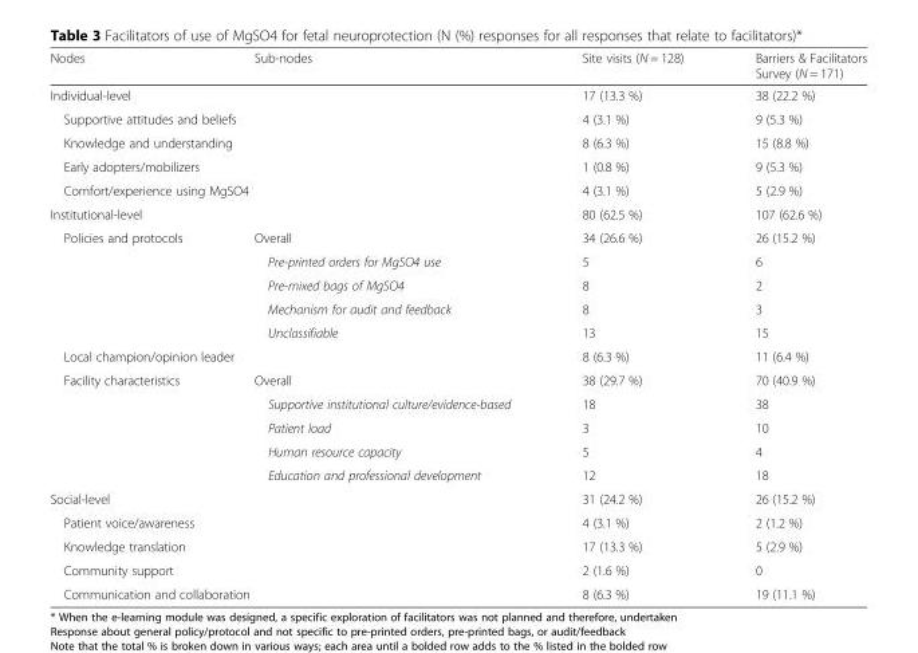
<table><thead><tr><td>Nodes</td><td>Sub-nodes</td><td>Site visits (N = 128)</td><td>Barriers &amp; Facilitators Survey (N = 171)</td></tr></thead><tbody><tr><td colspan="2">Individual-level</td><td>17 (13.3 %)</td><td>38 (22.2 %)</td></tr><tr><td colspan="2">Supportive attitudes and beliefs</td><td>4 (3.1 %)</td><td>9 (5.3 %)</td></tr><tr><td colspan="2">Knowledge and understanding</td><td>8 (6.3 %)</td><td>15 (8.8 %)</td></tr><tr><td colspan="2">Early adopters/mobilizers</td><td>1 (0.8 %)</td><td>9 (5.3 %)</td></tr><tr><td colspan="2">Comfort/experience using MgSO4</td><td>4 (3.1 %)</td><td>5 (2.9 %)</td></tr><tr><td colspan="2">Institutional-level</td><td>80 (62.5 %)</td><td>107 (62.6 %)</td></tr><tr><td rowspan="5">Policies and protocols</td><td>Overall</td><td>34 (26.6 %)</td><td>26 (15.2 %)</td></tr><tr><td>Pre-printed orders for MgSO4 use</td><td>5</td><td>6</td></tr><tr><td>Pre-mixed bags of MgSO4</td><td>8</td><td>2</td></tr><tr><td>Mechanism for audit and feedback</td><td>8</td><td>3</td></tr><tr><td>Unclassifiable</td><td>13</td><td>15</td></tr><tr><td colspan="2">Local champion/opinion leader</td><td>8 (6.3 %)</td><td>11 (6.4 %)</td></tr><tr><td rowspan="5">Facility characteristics</td><td>Overall</td><td>38 (29.7 %)</td><td>70 (40.9 %)</td></tr><tr><td>Supportive institutional culture/evidence-based</td><td>18</td><td>38</td></tr><tr><td>Patient load</td><td>3</td><td>10</td></tr><tr><td>Human resource capacity</td><td>5</td><td>4</td></tr><tr><td>Education and professional development</td><td>12</td><td>18</td></tr><tr><td colspan="2">Social-level</td><td>31 (24.2 %)</td><td>26 (15.2 %)</td></tr><tr><td colspan="2">Patient voice/awareness</td><td>4 (3.1 %)</td><td>2 (1.2 %)</td></tr><tr><td colspan="2">Knowledge translation</td><td>17 (13.3 %)</td><td>5 (2.9 %)</td></tr><tr><td colspan="2">Community support</td><td>2 (1.6 %)</td><td>0</td></tr><tr><td colspan="2">Communication and collaboration</td><td>8 (6.3 %)</td><td>19 (11.1 %)</td></tr></tbody></table>